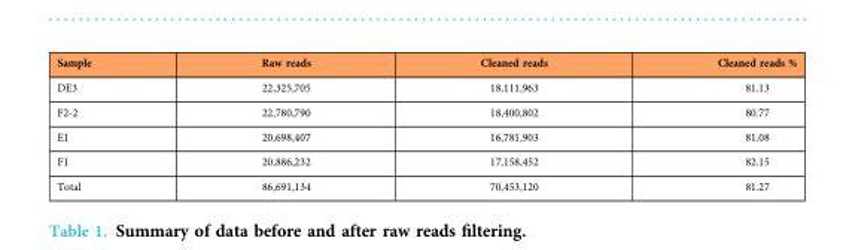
<table><thead><tr><td>Sample</td><td>Raw reads</td><td>Cleaned reads</td><td>Cleaned reads %</td></tr></thead><tbody><tr><td>DE3</td><td>22,325,705</td><td>18,111,963</td><td>81.13</td></tr><tr><td>F2-2</td><td>22,780,790</td><td>18,400,802</td><td>80.77</td></tr><tr><td>E1</td><td>20,698,407</td><td>16,781,903</td><td>81.08</td></tr><tr><td>F1</td><td>20,886,232</td><td>17,158,452</td><td>82.15</td></tr><tr><td>Total</td><td>86,691,134</td><td>70,453,120</td><td>81.27</td></tr></tbody></table>